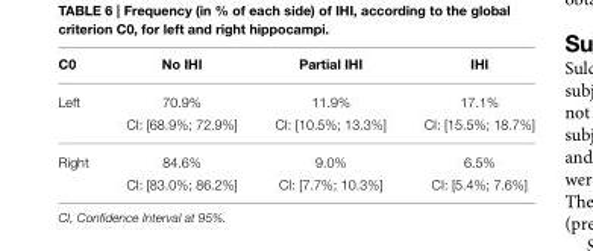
<table><thead><tr><td>C0</td><td>No IHI</td><td>Partial IHI</td><td>IHI</td></tr></thead><tbody><tr><td rowspan="2">Left</td><td>70.9%</td><td>11.9%</td><td>17.1%</td></tr><tr><td>CI: [68.9%; 72.9%]</td><td>CI: [10.5%; 13.3%]</td><td>CI: [15.5%; 18.7%]</td></tr><tr><td rowspan="2">Right</td><td>84.6%</td><td>9.0%</td><td>6.5%</td></tr><tr><td>CI: [83.0%; 86.2%]</td><td>CI: [7.7%; 10.3%]</td><td>CI: [5.4%; 7.6%]</td></tr></tbody></table>